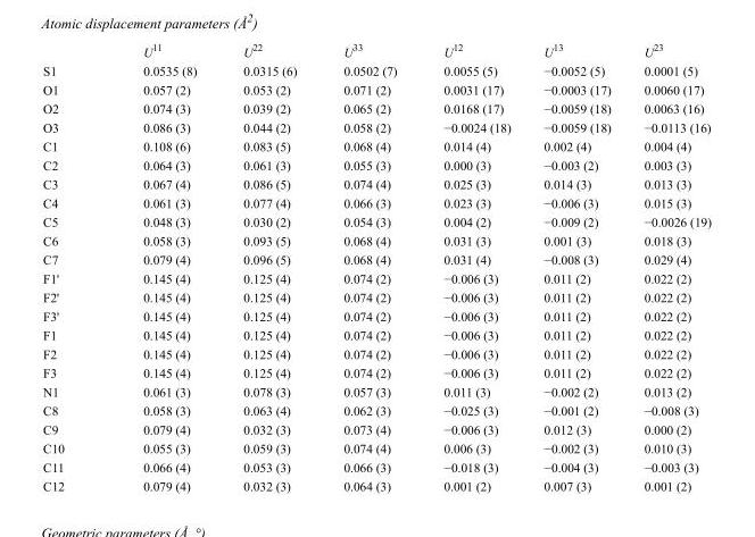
<table><thead><tr><td></td><td>U<sup>11</sup></td><td>U<sup>22</sup></td><td>U<sup>33</sup></td><td>U<sup>12</sup></td><td>U<sup>13</sup></td><td>U<sup>23</sup></td></tr></thead><tbody><tr><td>S1</td><td>0.0535 (8)</td><td>0.0315 (6)</td><td>0.0502 (7)</td><td>0.0055 (5)</td><td>−0.0052 (5)</td><td>0.0001 (5)</td></tr><tr><td>O1</td><td>0.057 (2)</td><td>0.053 (2)</td><td>0.071 (2)</td><td>0.0031 (17)</td><td>−0.0003 (17)</td><td>0.0060 (17)</td></tr><tr><td>O2</td><td>0.074 (3)</td><td>0.039 (2)</td><td>0.065 (2)</td><td>0.0168 (17)</td><td>−0.0059 (18)</td><td>0.0063 (16)</td></tr><tr><td>O3</td><td>0.086 (3)</td><td>0.044 (2)</td><td>0.058 (2)</td><td>−0.0024 (18)</td><td>−0.0059 (18)</td><td>−0.0113 (16)</td></tr><tr><td>C1</td><td>0.108 (6)</td><td>0.083 (5)</td><td>0.068 (4)</td><td>0.014 (4)</td><td>0.002 (4)</td><td>0.004 (4)</td></tr><tr><td>C2</td><td>0.064 (3)</td><td>0.061 (3)</td><td>0.055 (3)</td><td>0.000 (3)</td><td>−0.003 (2)</td><td>0.003 (3)</td></tr><tr><td>C3</td><td>0.067 (4)</td><td>0.086 (5)</td><td>0.074 (4)</td><td>0.025 (3)</td><td>0.014 (3)</td><td>0.013 (3)</td></tr><tr><td>C4</td><td>0.061 (3)</td><td>0.077 (4)</td><td>0.066 (3)</td><td>0.023 (3)</td><td>−0.006 (3)</td><td>0.015 (3)</td></tr><tr><td>C5</td><td>0.048 (3)</td><td>0.030 (2)</td><td>0.054 (3)</td><td>0.004 (2)</td><td>−0.009 (2)</td><td>−0.0026 (19)</td></tr><tr><td>C6</td><td>0.058 (3)</td><td>0.093 (5)</td><td>0.068 (4)</td><td>0.031 (3)</td><td>0.001 (3)</td><td>0.018 (3)</td></tr><tr><td>C7</td><td>0.079 (4)</td><td>0.096 (5)</td><td>0.068 (4)</td><td>0.031 (4)</td><td>−0.008 (3)</td><td>0.029 (4)</td></tr><tr><td>F1&#x27;</td><td>0.145 (4)</td><td>0.125 (4)</td><td>0.074 (2)</td><td>−0.006 (3)</td><td>0.011 (2)</td><td>0.022 (2)</td></tr><tr><td>F2&#x27;</td><td>0.145 (4)</td><td>0.125 (4)</td><td>0.074 (2)</td><td>−0.006 (3)</td><td>0.011 (2)</td><td>0.022 (2)</td></tr><tr><td>F3&#x27;</td><td>0.145 (4)</td><td>0.125 (4)</td><td>0.074 (2)</td><td>−0.006 (3)</td><td>0.011 (2)</td><td>0.022 (2)</td></tr><tr><td>F1</td><td>0.145 (4)</td><td>0.125 (4)</td><td>0.074 (2)</td><td>−0.006 (3)</td><td>0.011 (2)</td><td>0.022 (2)</td></tr><tr><td>F2</td><td>0.145 (4)</td><td>0.125 (4)</td><td>0.074 (2)</td><td>−0.006 (3)</td><td>0.011 (2)</td><td>0.022 (2)</td></tr><tr><td>F3</td><td>0.145 (4)</td><td>0.125 (4)</td><td>0.074 (2)</td><td>−0.006 (3)</td><td>0.011 (2)</td><td>0.022 (2)</td></tr><tr><td>N1</td><td>0.061 (3)</td><td>0.078 (3)</td><td>0.057 (3)</td><td>0.011 (3)</td><td>−0.002 (2)</td><td>0.013 (2)</td></tr><tr><td>C8</td><td>0.058 (3)</td><td>0.063 (4)</td><td>0.062 (3)</td><td>−0.025 (3)</td><td>−0.001 (2)</td><td>−0.008 (3)</td></tr><tr><td>C9</td><td>0.079 (4)</td><td>0.032 (3)</td><td>0.073 (4)</td><td>−0.006 (3)</td><td>0.012 (3)</td><td>0.000 (2)</td></tr><tr><td>C10</td><td>0.055 (3)</td><td>0.059 (3)</td><td>0.074 (4)</td><td>0.006 (3)</td><td>−0.002 (3)</td><td>0.010 (3)</td></tr><tr><td>C11</td><td>0.066 (4)</td><td>0.053 (3)</td><td>0.066 (3)</td><td>−0.018 (3)</td><td>−0.004 (3)</td><td>−0.003 (3)</td></tr><tr><td>C12</td><td>0.079 (4)</td><td>0.032 (3)</td><td>0.064 (3)</td><td>0.001 (2)</td><td>0.007 (3)</td><td>0.001 (2)</td></tr></tbody></table>